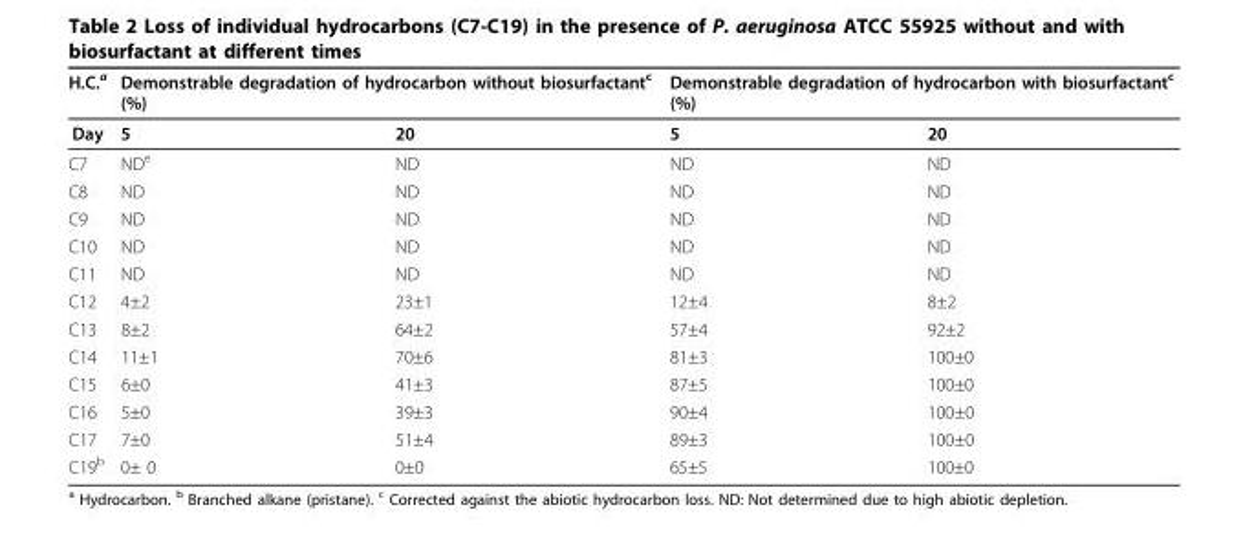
<table><thead><tr><td rowspan="2">H.C.a Day</td><td colspan="2">Demonstrable degradation of hydrocarbon without biosurfactantc (%)</td><td colspan="2">Demonstrable degradation of hydrocarbon with biosurfactantc (%)</td></tr><tr><td>5</td><td>20</td><td>5</td><td>20</td></tr></thead><tbody><tr><td>C7</td><td>ND<sup>e</sup></td><td>ND</td><td>ND</td><td>ND</td></tr><tr><td>C8</td><td>ND</td><td>ND</td><td>ND</td><td>ND</td></tr><tr><td>C9</td><td>ND</td><td>ND</td><td>ND</td><td>ND</td></tr><tr><td>C10</td><td>ND</td><td>ND</td><td>ND</td><td>ND</td></tr><tr><td>C11</td><td>ND</td><td>ND</td><td>ND</td><td>ND</td></tr><tr><td>C12</td><td>4±2</td><td>23±1</td><td>12±4</td><td>8±2</td></tr><tr><td>C13</td><td>8±2</td><td>64±2</td><td>57±4</td><td>92±2</td></tr><tr><td>C14</td><td>11±1</td><td>70±6</td><td>81±3</td><td>100±0</td></tr><tr><td>C15</td><td>6±0</td><td>41±3</td><td>87±5</td><td>100±0</td></tr><tr><td>C16</td><td>5±0</td><td>39±3</td><td>90±4</td><td>100±0</td></tr><tr><td>C17</td><td>7±0</td><td>51±4</td><td>89±3</td><td>100±0</td></tr><tr><td>C19<sup>b</sup></td><td>0± 0</td><td>0±0</td><td>65±5</td><td>100±0</td></tr></tbody></table>